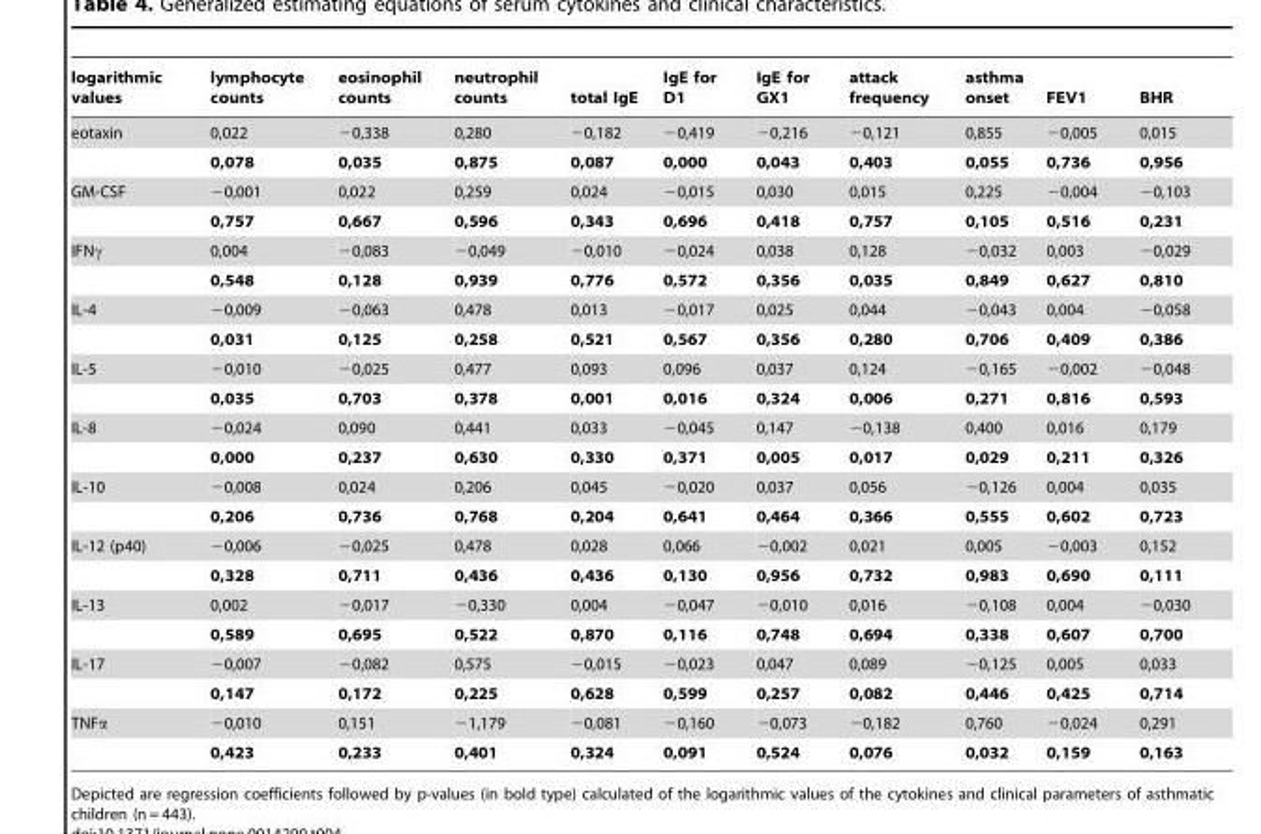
<table><thead><tr><td>logarithmic values</td><td>lymphocyte counts</td><td>eosinophil counts</td><td>neutrophil counts</td><td>total IgE</td><td>IgE for D1</td><td>IgE for GX1</td><td>attack frequency</td><td>asthma onset</td><td>FEV1</td><td>BHR</td></tr></thead><tbody><tr><td rowspan="2">eotaxin</td><td>0,022</td><td>−0,338</td><td>0,280</td><td>−0,182</td><td>−0,419</td><td>−0,216</td><td>−0,121</td><td>0,855</td><td>−0,005</td><td>0,015</td></tr><tr><td>0,078</td><td>0,035</td><td>0,875</td><td>0,087</td><td>0,000</td><td>0,043</td><td>0,403</td><td>0,055</td><td>0,736</td><td>0,956</td></tr><tr><td rowspan="2">GM-CSF</td><td>−0,001</td><td>0,022</td><td>0,259</td><td>0,024</td><td>−0,015</td><td>0,030</td><td>0,015</td><td>0,225</td><td>−0,004</td><td>−0,103</td></tr><tr><td>0,757</td><td>0,667</td><td>0,596</td><td>0,343</td><td>0,696</td><td>0,418</td><td>0,757</td><td>0,105</td><td>0,516</td><td>0,231</td></tr><tr><td rowspan="2">IFNγ</td><td>0,004</td><td>−0,083</td><td>−0,049</td><td>−0,010</td><td>−0,024</td><td>0,038</td><td>0,128</td><td>−0,032</td><td>0,003</td><td>−0,029</td></tr><tr><td>0,548</td><td>0,128</td><td>0,939</td><td>0,776</td><td>0,572</td><td>0,356</td><td>0,035</td><td>0,849</td><td>0,627</td><td>0,810</td></tr><tr><td rowspan="2">IL-4</td><td>−0,009</td><td>−0,063</td><td>0,478</td><td>0,013</td><td>−0,017</td><td>0,025</td><td>0,044</td><td>−0,043</td><td>0,004</td><td>−0,058</td></tr><tr><td>0,031</td><td>0,125</td><td>0,258</td><td>0,521</td><td>0,567</td><td>0,356</td><td>0,280</td><td>0,706</td><td>0,409</td><td>0,386</td></tr><tr><td rowspan="2">IL-5</td><td>−0,010</td><td>−0,025</td><td>0,477</td><td>0,093</td><td>0,096</td><td>0,037</td><td>0,124</td><td>−0,165</td><td>−0,002</td><td>−0,048</td></tr><tr><td>0,035</td><td>0,703</td><td>0,378</td><td>0,001</td><td>0,016</td><td>0,324</td><td>0,006</td><td>0,271</td><td>0,816</td><td>0,593</td></tr><tr><td rowspan="2">IL-8</td><td>−0,024</td><td>0,090</td><td>0,441</td><td>0,033</td><td>−0,045</td><td>0,147</td><td>−0,138</td><td>0,400</td><td>0,016</td><td>0,179</td></tr><tr><td>0,000</td><td>0,237</td><td>0,630</td><td>0,330</td><td>0,371</td><td>0,005</td><td>0,017</td><td>0,029</td><td>0,211</td><td>0,326</td></tr><tr><td rowspan="2">IL-10</td><td>−0,008</td><td>0,024</td><td>0,206</td><td>0,045</td><td>−0,020</td><td>0,037</td><td>0,056</td><td>−0,126</td><td>0,004</td><td>0,035</td></tr><tr><td>0,206</td><td>0,736</td><td>0,768</td><td>0,204</td><td>0,641</td><td>0,464</td><td>0,366</td><td>0,555</td><td>0,602</td><td>0,723</td></tr><tr><td rowspan="2">IL-12 (p40)</td><td>−0,006</td><td>−0,025</td><td>0,478</td><td>0,028</td><td>0,066</td><td>−0,002</td><td>0,021</td><td>0,005</td><td>−0,003</td><td>0,152</td></tr><tr><td>0,328</td><td>0,711</td><td>0,436</td><td>0,436</td><td>0,130</td><td>0,956</td><td>0,732</td><td>0,983</td><td>0,690</td><td>0,111</td></tr><tr><td rowspan="2">IL-13</td><td>0,002</td><td>−0,017</td><td>−0,330</td><td>0,004</td><td>−0,047</td><td>−0,010</td><td>0,016</td><td>−0,108</td><td>0,004</td><td>−0,030</td></tr><tr><td>0,589</td><td>0,695</td><td>0,522</td><td>0,870</td><td>0,116</td><td>0,748</td><td>0,694</td><td>0,338</td><td>0,607</td><td>0,700</td></tr><tr><td rowspan="2">IL-17</td><td>−0,007</td><td>−0,082</td><td>0,575</td><td>−0,015</td><td>−0,023</td><td>0,047</td><td>0,089</td><td>−0,125</td><td>0,005</td><td>0,033</td></tr><tr><td>0,147</td><td>0,172</td><td>0,225</td><td>0,628</td><td>0,599</td><td>0,257</td><td>0,082</td><td>0,446</td><td>0,425</td><td>0,714</td></tr><tr><td rowspan="2">TNFα</td><td>−0,010</td><td>0,151</td><td>−1,179</td><td>−0,081</td><td>−0,160</td><td>−0,073</td><td>−0,182</td><td>0,760</td><td>−0,024</td><td>0,291</td></tr><tr><td>0,423</td><td>0,233</td><td>0,401</td><td>0,324</td><td>0,091</td><td>0,524</td><td>0,076</td><td>0,032</td><td>0,159</td><td>0,163</td></tr></tbody></table>